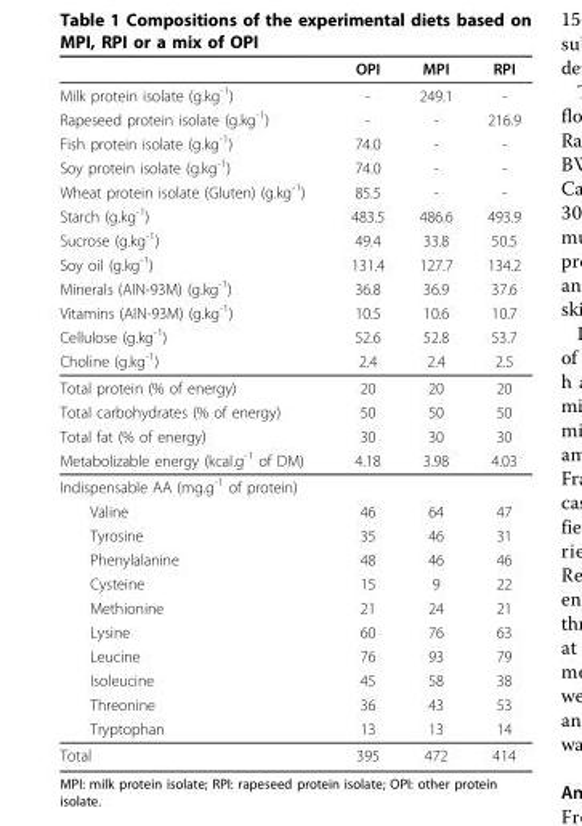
<table><thead><tr><td></td><td>OPI</td><td>MPI</td><td>RPI</td></tr></thead><tbody><tr><td>Milk protein isolate (g.kg<sup>-1</sup>)</td><td>-</td><td>249.1</td><td>-</td></tr><tr><td>Rapeseed protein isolate (g.kg<sup>-1</sup>)</td><td>-</td><td>-</td><td>216.9</td></tr><tr><td>Fish protein isolate (g.kg<sup>-1</sup>)</td><td>74.0</td><td>-</td><td>-</td></tr><tr><td>Soy protein isolate (g.kg<sup>-1</sup>)</td><td>74.0</td><td>-</td><td>-</td></tr><tr><td>Wheat protein isolate (Gluten) (g.kg<sup>-1</sup>)</td><td>85.5</td><td>-</td><td>-</td></tr><tr><td>Starch (g.kg<sup>-1</sup>)</td><td>483.5</td><td>486.6</td><td>493.9</td></tr><tr><td>Sucrose (g.kg<sup>-1</sup>)</td><td>49.4</td><td>33.8</td><td>50.5</td></tr><tr><td>Soy oil (g.kg<sup>-1</sup>)</td><td>131.4</td><td>127.7</td><td>134.2</td></tr><tr><td>Minerals (AIN-93M) (g.kg<sup>-1</sup>)</td><td>36.8</td><td>36.9</td><td>37.6</td></tr><tr><td>Vitamins (AIN-93M) (g.kg<sup>-1</sup>)</td><td>10.5</td><td>10.6</td><td>10.7</td></tr><tr><td>Cellulose (g.kg<sup>-1</sup>)</td><td>52.6</td><td>52.8</td><td>53.7</td></tr><tr><td>Choline (g.kg<sup>-1</sup>)</td><td>2.4</td><td>2.4</td><td>2.5</td></tr><tr><td>Total protein (% of energy)</td><td>20</td><td>20</td><td>20</td></tr><tr><td>Total carbohydrates (% of energy)</td><td>50</td><td>50</td><td>50</td></tr><tr><td>Total fat (% of energy)</td><td>30</td><td>30</td><td>30</td></tr><tr><td>Metabolizable energy (kcal.g<sup>-1</sup> of DM)</td><td>4.18</td><td>3.98</td><td>4.03</td></tr><tr><td colspan="4">Indispensable AA (mg.g<sup>-1</sup> of protein)</td></tr><tr><td>Valine</td><td>46</td><td>64</td><td>47</td></tr><tr><td>Tyrosine</td><td>35</td><td>46</td><td>31</td></tr><tr><td>Phenylalanine</td><td>48</td><td>46</td><td>46</td></tr><tr><td>Cysteine</td><td>15</td><td>9</td><td>22</td></tr><tr><td>Methionine</td><td>21</td><td>24</td><td>21</td></tr><tr><td>Lysine</td><td>60</td><td>76</td><td>63</td></tr><tr><td>Leucine</td><td>76</td><td>93</td><td>79</td></tr><tr><td>Isoleucine</td><td>45</td><td>58</td><td>38</td></tr><tr><td>Threonine</td><td>36</td><td>43</td><td>53</td></tr><tr><td>Tryptophan</td><td>13</td><td>13</td><td>14</td></tr><tr><td>Total</td><td>395</td><td>472</td><td>414</td></tr></tbody></table>